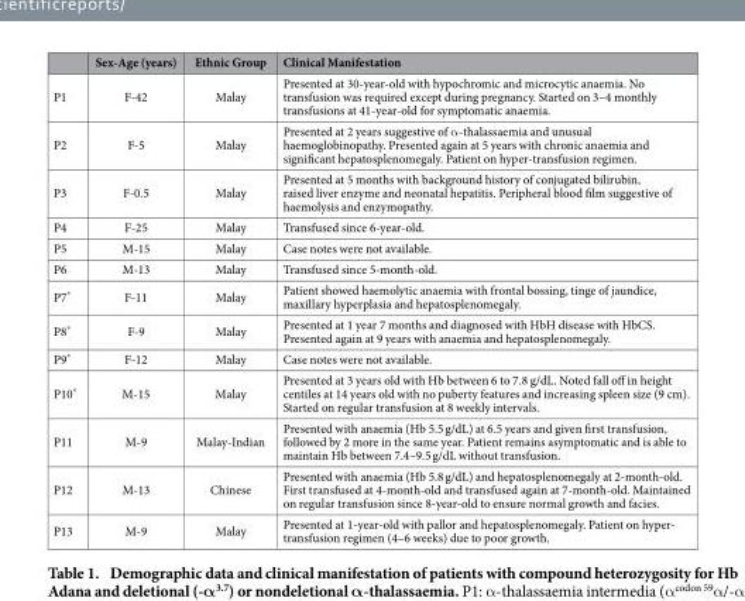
<table><thead><tr><td></td><td>Sex-Age (years)</td><td>Ethnic Group</td><td>Clinical Manifestation</td></tr></thead><tbody><tr><td>P1</td><td>F-42</td><td>Malay</td><td>Presented at 30-year-old with hypochromic and microcytic anaemia. No transfusion was required except during pregnancy. Started on 3–4 monthly transfusions at 41-year-old for symptomatic anaemia.</td></tr><tr><td>P2</td><td>F-5</td><td>Malay</td><td>Presented at 2 years suggestive of α -thalassaemia and unusual haemoglobinopathy. Presented again at 5 years with chronic anaemia and significant hepatosplenomegaly. Patient on hyper-transfusion regimen.</td></tr><tr><td>P3</td><td>F-0.5</td><td>Malay</td><td>Presented at 5 months with background history of conjugated bilirubin, raised liver enzyme and neonatal hepatitis. Peripheral blood film suggestive of haemolysis and enzymopathy.</td></tr><tr><td>P4</td><td>F-25</td><td>Malay</td><td>Transfused since 6-year-old.</td></tr><tr><td>P5</td><td>M-15</td><td>Malay</td><td>Case notes were not available.</td></tr><tr><td>P6</td><td>M-13</td><td>Malay</td><td>Transfused since 5-month-old.</td></tr><tr><td>P7*</td><td>F-11</td><td>Malay</td><td>Patient showed haemolytic anaemia with frontal bossing, tinge of jaundice, maxillary hyperplasia and hepatosplenomegaly.</td></tr><tr><td>P8*</td><td>F-9</td><td>Malay</td><td>Presented at 1 year 7 months and diagnosed with HbH disease with HbCS. Presented again at 9 years with anaemia and hepatosplenomegaly.</td></tr><tr><td>P9*</td><td>F-12</td><td>Malay</td><td>Case notes were not available.</td></tr><tr><td>P10*</td><td>M-15</td><td>Malay</td><td>Presented at 3 years old with Hb between 6 to 7.8 g/dL. Noted fall off in height centiles at 14 years old with no puberty features and increasing spleen size (9 cm). Started on regular transfusion at 8 weekly intervals.</td></tr><tr><td>P11</td><td>M-9</td><td>Malay-Indian</td><td>Presented with anaemia (Hb 5.5 g/dL) at 6.5 years and given first transfusion, followed by 2 more in the same year. Patient remains asymptomatic and is able to maintain Hb between 7.4–9.5 g/dL without transfusion.</td></tr><tr><td>P12</td><td>M-13</td><td>Chinese</td><td>Presented with anaemia (Hb 5.8 g/dL) and hepatosplenomegaly at 2-month-old. First transfused at 4-month-old and transfused again at 7-month-old. Maintained on regular transfusion since 8-year-old to ensure normal growth and facies.</td></tr><tr><td>P13</td><td>M-9</td><td>Malay</td><td>Presented at 1-year-old with pallor and hepatosplenomegaly. Patient on hyper- transfusion regimen (4–6 weeks) due to poor growth.</td></tr></tbody></table>